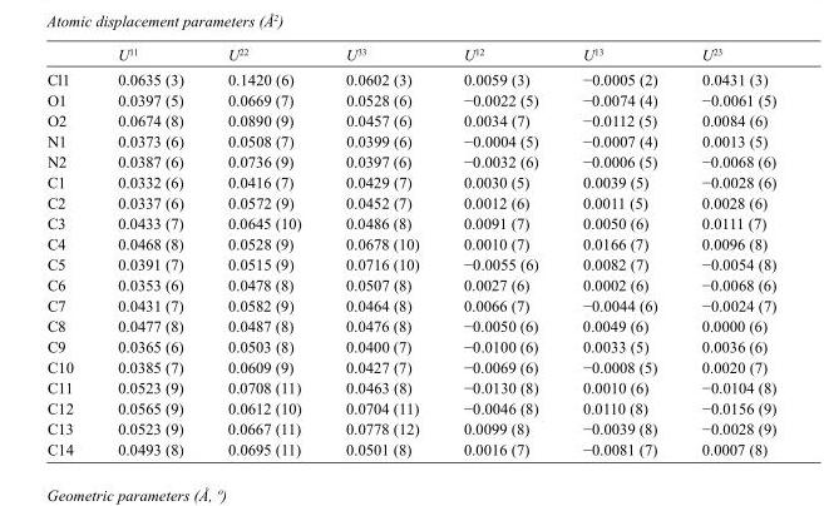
<table><thead><tr><td></td><td>U<sup>11</sup></td><td>U<sup>22</sup></td><td>U<sup>33</sup></td><td>U<sup>12</sup></td><td>U<sup>13</sup></td><td>U<sup>23</sup></td></tr></thead><tbody><tr><td>Cl1</td><td>0.0635 (3)</td><td>0.1420 (6)</td><td>0.0602 (3)</td><td>0.0059 (3)</td><td>−0.0005 (2)</td><td>0.0431 (3)</td></tr><tr><td>O1</td><td>0.0397 (5)</td><td>0.0669 (7)</td><td>0.0528 (6)</td><td>−0.0022 (5)</td><td>−0.0074 (4)</td><td>−0.0061 (5)</td></tr><tr><td>O2</td><td>0.0674 (8)</td><td>0.0890 (9)</td><td>0.0457 (6)</td><td>0.0034 (7)</td><td>−0.0112 (5)</td><td>0.0084 (6)</td></tr><tr><td>N1</td><td>0.0373 (6)</td><td>0.0508 (7)</td><td>0.0399 (6)</td><td>−0.0004 (5)</td><td>−0.0007 (4)</td><td>0.0013 (5)</td></tr><tr><td>N2</td><td>0.0387 (6)</td><td>0.0736 (9)</td><td>0.0397 (6)</td><td>−0.0032 (6)</td><td>−0.0006 (5)</td><td>−0.0068 (6)</td></tr><tr><td>C1</td><td>0.0332 (6)</td><td>0.0416 (7)</td><td>0.0429 (7)</td><td>0.0030 (5)</td><td>0.0039 (5)</td><td>−0.0028 (6)</td></tr><tr><td>C2</td><td>0.0337 (6)</td><td>0.0572 (9)</td><td>0.0452 (7)</td><td>0.0012 (6)</td><td>0.0011 (5)</td><td>0.0028 (6)</td></tr><tr><td>C3</td><td>0.0433 (7)</td><td>0.0645 (10)</td><td>0.0486 (8)</td><td>0.0091 (7)</td><td>0.0050 (6)</td><td>0.0111 (7)</td></tr><tr><td>C4</td><td>0.0468 (8)</td><td>0.0528 (9)</td><td>0.0678 (10)</td><td>0.0010 (7)</td><td>0.0166 (7)</td><td>0.0096 (8)</td></tr><tr><td>C5</td><td>0.0391 (7)</td><td>0.0515 (9)</td><td>0.0716 (10)</td><td>−0.0055 (6)</td><td>0.0082 (7)</td><td>−0.0054 (8)</td></tr><tr><td>C6</td><td>0.0353 (6)</td><td>0.0478 (8)</td><td>0.0507 (8)</td><td>0.0027 (6)</td><td>0.0002 (6)</td><td>−0.0068 (6)</td></tr><tr><td>C7</td><td>0.0431 (7)</td><td>0.0582 (9)</td><td>0.0464 (8)</td><td>0.0066 (7)</td><td>−0.0044 (6)</td><td>−0.0024 (7)</td></tr><tr><td>C8</td><td>0.0477 (8)</td><td>0.0487 (8)</td><td>0.0476 (8)</td><td>−0.0050 (6)</td><td>0.0049 (6)</td><td>0.0000 (6)</td></tr><tr><td>C9</td><td>0.0365 (6)</td><td>0.0503 (8)</td><td>0.0400 (7)</td><td>−0.0100 (6)</td><td>0.0033 (5)</td><td>0.0036 (6)</td></tr><tr><td>C10</td><td>0.0385 (7)</td><td>0.0609 (9)</td><td>0.0427 (7)</td><td>−0.0069 (6)</td><td>−0.0008 (5)</td><td>0.0020 (7)</td></tr><tr><td>C11</td><td>0.0523 (9)</td><td>0.0708 (11)</td><td>0.0463 (8)</td><td>−0.0130 (8)</td><td>0.0010 (6)</td><td>−0.0104 (8)</td></tr><tr><td>C12</td><td>0.0565 (9)</td><td>0.0612 (10)</td><td>0.0704 (11)</td><td>−0.0046 (8)</td><td>0.0110 (8)</td><td>−0.0156 (9)</td></tr><tr><td>C13</td><td>0.0523 (9)</td><td>0.0667 (11)</td><td>0.0778 (12)</td><td>0.0099 (8)</td><td>−0.0039 (8)</td><td>−0.0028 (9)</td></tr><tr><td>C14</td><td>0.0493 (8)</td><td>0.0695 (11)</td><td>0.0501 (8)</td><td>0.0016 (7)</td><td>−0.0081 (7)</td><td>0.0007 (8)</td></tr></tbody></table>